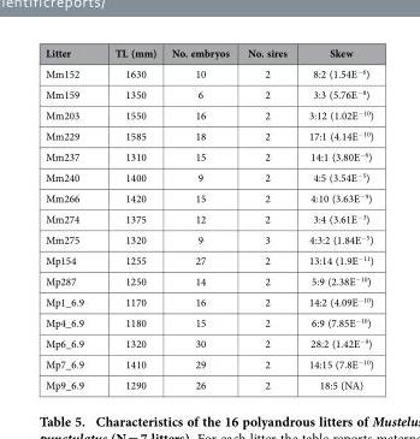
<table><thead><tr><td>Litter</td><td>TL (mm)</td><td>No. embryos</td><td>No. sires</td><td>Skew</td></tr></thead><tbody><tr><td>Mm152</td><td>1630</td><td>10</td><td>2</td><td>8:2 (1.54E<sup>−6</sup>)</td></tr><tr><td>Mm159</td><td>1350</td><td>6</td><td>2</td><td>3:3 (5.76E<sup>−8</sup>)</td></tr><tr><td>Mm203</td><td>1550</td><td>16</td><td>2</td><td>3:12 (1.02E<sup>−10</sup>)</td></tr><tr><td>Mm229</td><td>1585</td><td>18</td><td>2</td><td>17:1 (4.14E<sup>−10</sup>)</td></tr><tr><td>Mm237</td><td>1310</td><td>15</td><td>2</td><td>14:1 (3.80E<sup>−6</sup>)</td></tr><tr><td>Mm240</td><td>1400</td><td>9</td><td>2</td><td>4:5 (3.54E<sup>−5</sup>)</td></tr><tr><td>Mm266</td><td>1420</td><td>15</td><td>2</td><td>4:10 (3.63E<sup>−9</sup>)</td></tr><tr><td>Mm274</td><td>1375</td><td>12</td><td>2</td><td>3:4 (3.61E<sup>−3</sup>)</td></tr><tr><td>Mm275</td><td>1320</td><td>9</td><td>3</td><td>4:3:2 (1.84E<sup>−5</sup>)</td></tr><tr><td>Mp154</td><td>1255</td><td>27</td><td>2</td><td>13:14 (1.9E<sup>−11</sup>)</td></tr><tr><td>Mp287</td><td>1250</td><td>14</td><td>2</td><td>5:9 (2.38E<sup>−10</sup>)</td></tr><tr><td>Mp1_6.9</td><td>1170</td><td>16</td><td>2</td><td>14:2 (4.09E<sup>−10</sup>)</td></tr><tr><td>Mp4_6.9</td><td>1180</td><td>15</td><td>2</td><td>6:9 (7.85E<sup>−10</sup>)</td></tr><tr><td>Mp6_6.9</td><td>1320</td><td>30</td><td>2</td><td>28:2 (1.42E<sup>−9</sup>)</td></tr><tr><td>Mp7_6.9</td><td>1410</td><td>29</td><td>2</td><td>14:15 (7.8E<sup>−10</sup>)</td></tr><tr><td>Mp9_6.9</td><td>1290</td><td>26</td><td>2</td><td>18:5 (NA)</td></tr></tbody></table>